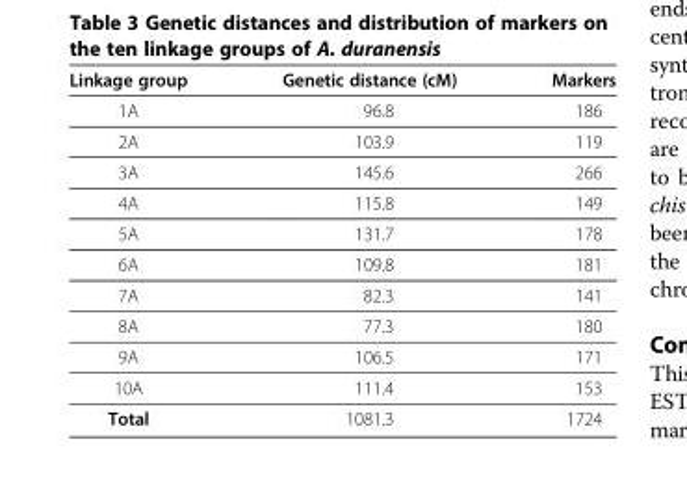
<table><thead><tr><td>Linkage group</td><td>Genetic distance (cM)</td><td>Markers</td></tr></thead><tbody><tr><td>1A</td><td>96.8</td><td>186</td></tr><tr><td>2A</td><td>103.9</td><td>119</td></tr><tr><td>3A</td><td>145.6</td><td>266</td></tr><tr><td>4A</td><td>115.8</td><td>149</td></tr><tr><td>5A</td><td>131.7</td><td>178</td></tr><tr><td>6A</td><td>109.8</td><td>181</td></tr><tr><td>7A</td><td>82.3</td><td>141</td></tr><tr><td>8A</td><td>77.3</td><td>180</td></tr><tr><td>9A</td><td>106.5</td><td>171</td></tr><tr><td>10A</td><td>111.4</td><td>153</td></tr><tr><td>Total</td><td>1081.3</td><td>1724</td></tr></tbody></table>